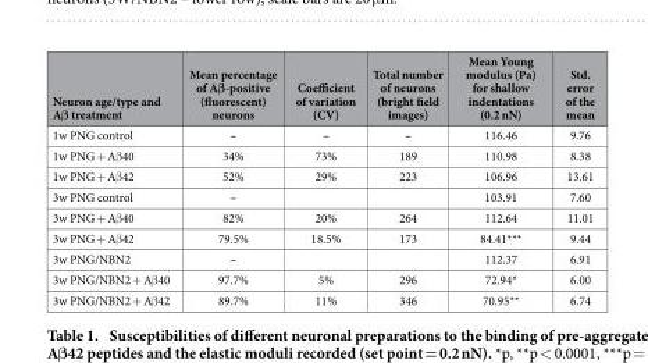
<table><thead><tr><td>Neuron age/type and Aβ treatment</td><td>Mean percentage of Aβ-positive (fluorescent) neurons</td><td>Coefficient of variation (CV)</td><td>Total number of neurons (bright field images)</td><td>Mean Young modulus (Pa) for shallow indentations (0.2 nN)</td><td>Std. error of the mean</td></tr></thead><tbody><tr><td>1w PNG control</td><td>–</td><td>–</td><td>–</td><td>116.46</td><td>9.76</td></tr><tr><td>1w PNG + Aβ 40</td><td>34%</td><td>73%</td><td>189</td><td>110.98</td><td>8.38</td></tr><tr><td>1w PNG + Aβ 42</td><td>52%</td><td>29%</td><td>223</td><td>106.96</td><td>13.61</td></tr><tr><td>3w PNG control</td><td>–</td><td></td><td></td><td>103.91</td><td>7.60</td></tr><tr><td>3w PNG + Aβ 40</td><td>82%</td><td>20%</td><td>264</td><td>112.64</td><td>11.01</td></tr><tr><td>3w PNG + Aβ 42</td><td>79.5%</td><td>18.5%</td><td>173</td><td>84.41***</td><td>9.44</td></tr><tr><td>3w PNG/NBN2</td><td>–</td><td></td><td></td><td>112.37</td><td>6.91</td></tr><tr><td>3w PNG/NBN2 + Aβ 40</td><td>97.7%</td><td>5%</td><td>296</td><td>72.94*</td><td>6.00</td></tr><tr><td>3w PNG/NBN2 + Aβ 42</td><td>89.7%</td><td>11%</td><td>346</td><td>70.95**</td><td>6.74</td></tr></tbody></table>